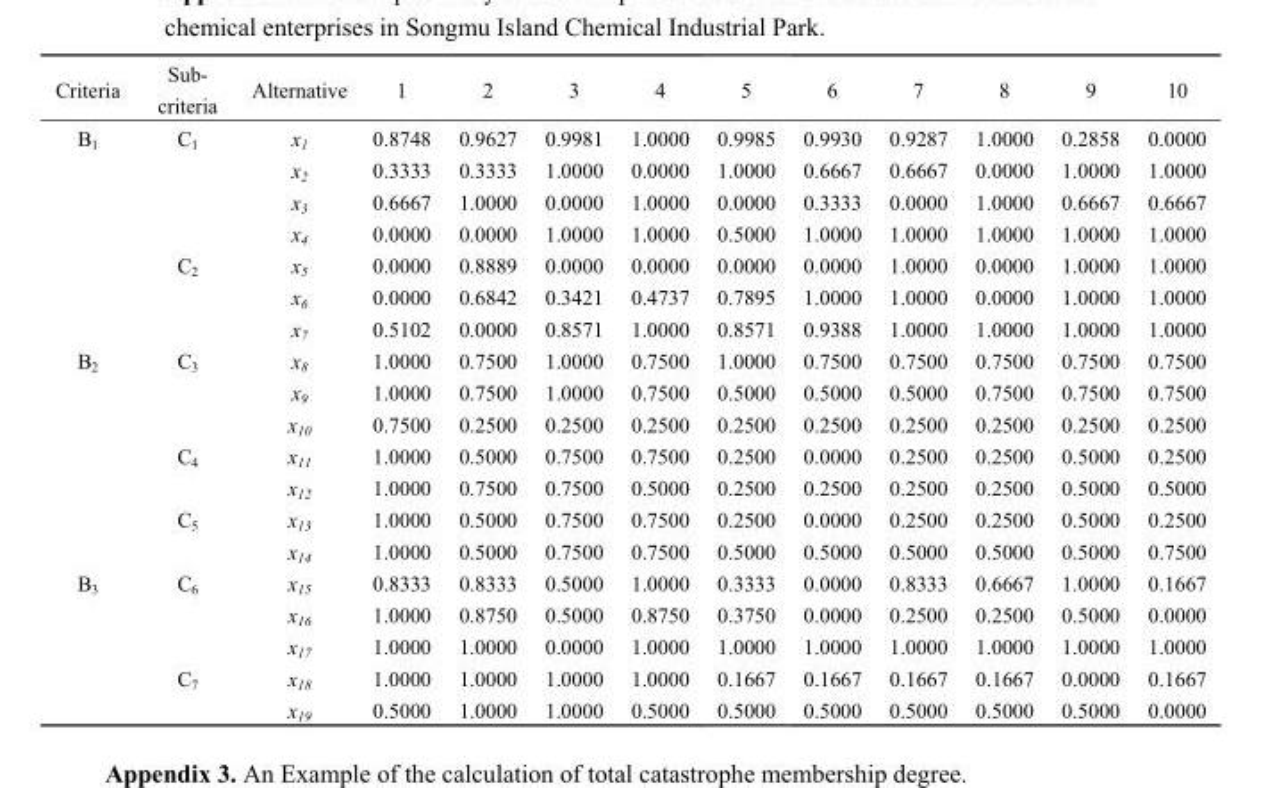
<table><thead><tr><td>Criteria</td><td>Sub- criteria</td><td>Alternative</td><td>1</td><td>2</td><td>3</td><td>4</td><td>5</td><td>6</td><td>7</td><td>8</td><td>9</td><td>10</td></tr></thead><tbody><tr><td rowspan="7">B<sub>1</sub></td><td rowspan="4">C<sub>1</sub></td><td>x<sub>1</sub></td><td>0.8748</td><td>0.9627</td><td>0.9981</td><td>1.0000</td><td>0.9985</td><td>0.9930</td><td>0.9287</td><td>1.0000</td><td>0.2858</td><td>0.0000</td></tr><tr><td>x<sub>2</sub></td><td>0.3333</td><td>0.3333</td><td>1.0000</td><td>0.0000</td><td>1.0000</td><td>0.6667</td><td>0.6667</td><td>0.0000</td><td>1.0000</td><td>1.0000</td></tr><tr><td>x<sub>3</sub></td><td>0.6667</td><td>1.0000</td><td>0.0000</td><td>1.0000</td><td>0.0000</td><td>0.3333</td><td>0.0000</td><td>1.0000</td><td>0.6667</td><td>0.6667</td></tr><tr><td>x<sub>4</sub></td><td>0.0000</td><td>0.0000</td><td>1.0000</td><td>1.0000</td><td>0.5000</td><td>1.0000</td><td>1.0000</td><td>1.0000</td><td>1.0000</td><td>1.0000</td></tr><tr><td rowspan="3">C<sub>2</sub></td><td>x<sub>5</sub></td><td>0.0000</td><td>0.8889</td><td>0.0000</td><td>0.0000</td><td>0.0000</td><td>0.0000</td><td>1.0000</td><td>0.0000</td><td>1.0000</td><td>1.0000</td></tr><tr><td>x<sub>6</sub></td><td>0.0000</td><td>0.6842</td><td>0.3421</td><td>0.4737</td><td>0.7895</td><td>1.0000</td><td>1.0000</td><td>0.0000</td><td>1.0000</td><td>1.0000</td></tr><tr><td>x<sub>7</sub></td><td>0.5102</td><td>0.0000</td><td>0.8571</td><td>1.0000</td><td>0.8571</td><td>0.9388</td><td>1.0000</td><td>1.0000</td><td>1.0000</td><td>1.0000</td></tr><tr><td rowspan="7">B<sub>2</sub></td><td rowspan="3">C<sub>3</sub></td><td>x<sub>8</sub></td><td>1.0000</td><td>0.7500</td><td>1.0000</td><td>0.7500</td><td>1.0000</td><td>0.7500</td><td>0.7500</td><td>0.7500</td><td>0.7500</td><td>0.7500</td></tr><tr><td>x<sub>9</sub></td><td>1.0000</td><td>0.7500</td><td>1.0000</td><td>0.7500</td><td>0.5000</td><td>0.5000</td><td>0.5000</td><td>0.7500</td><td>0.7500</td><td>0.7500</td></tr><tr><td>x<sub>10</sub></td><td>0.7500</td><td>0.2500</td><td>0.2500</td><td>0.2500</td><td>0.2500</td><td>0.2500</td><td>0.2500</td><td>0.2500</td><td>0.2500</td><td>0.2500</td></tr><tr><td rowspan="2">C<sub>4</sub></td><td>x<sub>11</sub></td><td>1.0000</td><td>0.5000</td><td>0.7500</td><td>0.7500</td><td>0.2500</td><td>0.0000</td><td>0.2500</td><td>0.2500</td><td>0.5000</td><td>0.2500</td></tr><tr><td>x<sub>12</sub></td><td>1.0000</td><td>0.7500</td><td>0.7500</td><td>0.5000</td><td>0.2500</td><td>0.2500</td><td>0.2500</td><td>0.2500</td><td>0.5000</td><td>0.5000</td></tr><tr><td rowspan="2">C<sub>5</sub></td><td>x<sub>13</sub></td><td>1.0000</td><td>0.5000</td><td>0.7500</td><td>0.7500</td><td>0.2500</td><td>0.0000</td><td>0.2500</td><td>0.2500</td><td>0.5000</td><td>0.2500</td></tr><tr><td>x<sub>14</sub></td><td>1.0000</td><td>0.5000</td><td>0.7500</td><td>0.7500</td><td>0.5000</td><td>0.5000</td><td>0.5000</td><td>0.5000</td><td>0.5000</td><td>0.7500</td></tr><tr><td rowspan="5">B<sub>3</sub></td><td rowspan="3">C<sub>6</sub></td><td>x<sub>15</sub></td><td>0.8333</td><td>0.8333</td><td>0.5000</td><td>1.0000</td><td>0.3333</td><td>0.0000</td><td>0.8333</td><td>0.6667</td><td>1.0000</td><td>0.1667</td></tr><tr><td>x<sub>16</sub></td><td>1.0000</td><td>0.8750</td><td>0.5000</td><td>0.8750</td><td>0.3750</td><td>0.0000</td><td>0.2500</td><td>0.2500</td><td>0.5000</td><td>0.0000</td></tr><tr><td>x<sub>17</sub></td><td>1.0000</td><td>1.0000</td><td>0.0000</td><td>1.0000</td><td>1.0000</td><td>1.0000</td><td>1.0000</td><td>1.0000</td><td>1.0000</td><td>1.0000</td></tr><tr><td rowspan="2">C<sub>7</sub></td><td>x<sub>18</sub></td><td>1.0000</td><td>1.0000</td><td>1.0000</td><td>1.0000</td><td>0.1667</td><td>0.1667</td><td>0.1667</td><td>0.1667</td><td>0.0000</td><td>0.1667</td></tr><tr><td>x<sub>19</sub></td><td>0.5000</td><td>1.0000</td><td>1.0000</td><td>0.5000</td><td>0.5000</td><td>0.5000</td><td>0.5000</td><td>0.5000</td><td>0.5000</td><td>0.0000</td></tr></tbody></table>